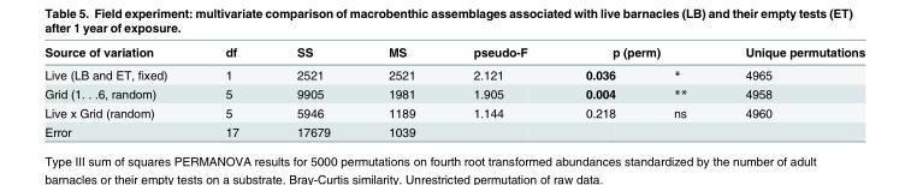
<table><thead><tr><td>Source of variation</td><td>df</td><td>SS</td><td>MS</td><td>pseudo-F</td><td>p (perm)</td><td>Unique permutations</td></tr></thead><tbody><tr><td>Live (LB and ET, fixed)</td><td>1</td><td>2521</td><td>2521</td><td>2.121</td><td>0.036 *</td><td>4965</td></tr><tr><td>Grid (1. . .6, random)</td><td>5</td><td>9905</td><td>1981</td><td>1.905</td><td>0.004 **</td><td>4958</td></tr><tr><td>Live x Grid (random)</td><td>5</td><td>5946</td><td>1189</td><td>1.144</td><td>0.218 ns</td><td>4960</td></tr><tr><td>Error</td><td>17</td><td>17679</td><td>1039</td><td></td><td></td><td></td></tr></tbody></table>